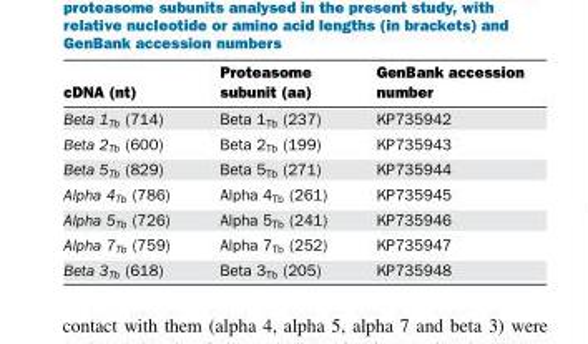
<table><thead><tr><td>cDNA (nt)</td><td>Proteasome subunit (aa)</td><td>GenBank accession number</td></tr></thead><tbody><tr><td>Beta 1<sub>Tb</sub> (714)</td><td>Beta 1<sub>Tb</sub> (237)</td><td>KP735942</td></tr><tr><td>Beta 2<sub>Tb</sub> (600)</td><td>Beta 2<sub>Tb</sub> (199)</td><td>KP735943</td></tr><tr><td>Beta 5<sub>Tb</sub> (829)</td><td>Beta 5<sub>Tb</sub> (271)</td><td>KP735944</td></tr><tr><td>Alpha 4<sub>Tb</sub> (786)</td><td>Alpha 4<sub>Tb</sub> (261)</td><td>KP735945</td></tr><tr><td>Alpha 5<sub>Tb</sub> (726)</td><td>Alpha 5<sub>Tb</sub> (241)</td><td>KP735946</td></tr><tr><td>Alpha 7<sub>Tb</sub> (759)</td><td>Alpha 7<sub>Tb</sub> (252)</td><td>KP735947</td></tr><tr><td>Beta 3<sub>Tb</sub> (618)</td><td>Beta 3<sub>Tb</sub> (205)</td><td>KP735948</td></tr></tbody></table>